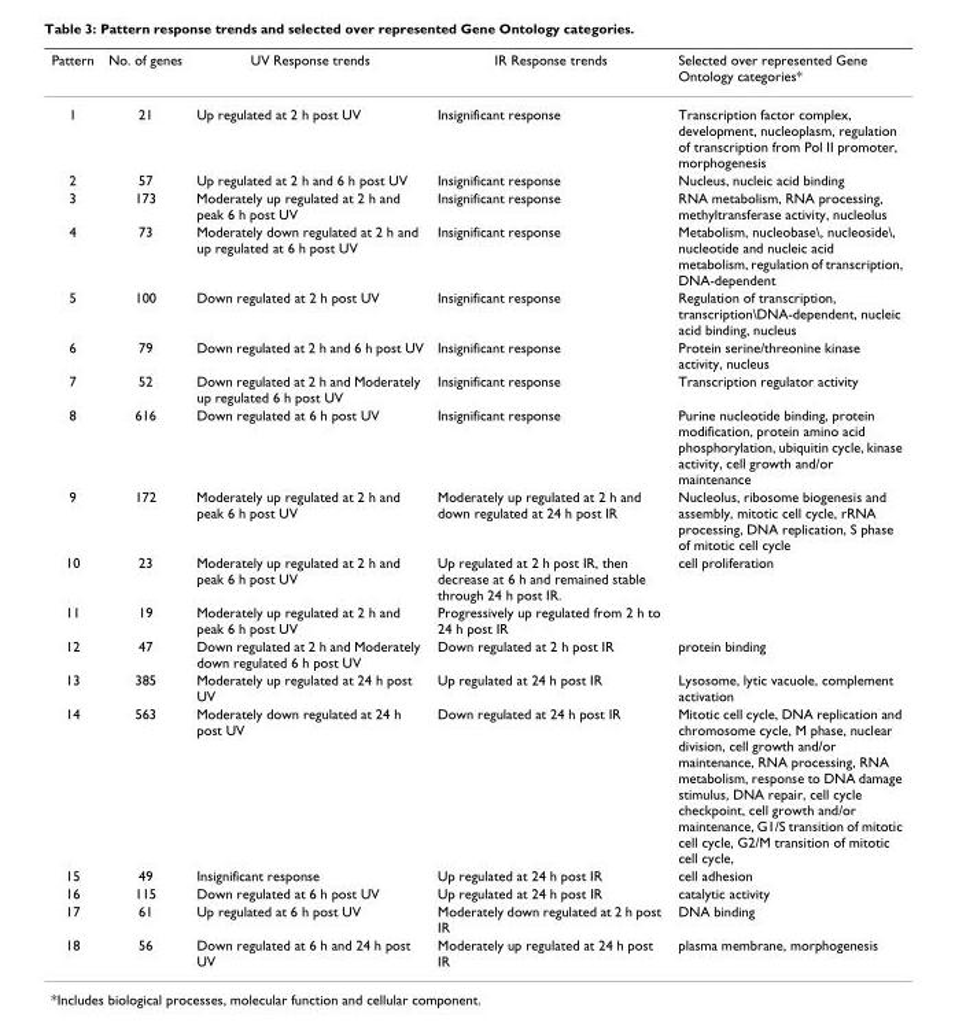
<table><thead><tr><td>Pattern</td><td>No. of genes</td><td>UV Response trends</td><td>IR Response trends</td><td>Selected over represented Gene Ontology categories*</td></tr></thead><tbody><tr><td>1</td><td>21</td><td>Up regulated at 2 h post UV</td><td>Insignificant response</td><td>Transcription factor complex, development, nucleoplasm, regulation of transcription from Pol II promoter, morphogenesis</td></tr><tr><td>2</td><td>57</td><td>Up regulated at 2 h and 6 h post UV</td><td>Insignificant response</td><td>Nucleus, nucleic acid binding</td></tr><tr><td>3</td><td>173</td><td>Moderately up regulated at 2 h and peak 6 h post UV</td><td>Insignificant response</td><td>RNA metabolism, RNA processing, methyltransferase activity, nucleolus</td></tr><tr><td>4</td><td>73</td><td>Moderately down regulated at 2 h and up regulated at 6 h post UV</td><td>Insignificant response</td><td>Metabolism, nucleobase\, nucleoside\, nucleotide and nucleic acid metabolism, regulation of transcription, DNA-dependent</td></tr><tr><td>5</td><td>100</td><td>Down regulated at 2 h post UV</td><td>Insignificant response</td><td>Regulation of transcription, transcription\DNA-dependent, nucleic acid binding, nucleus</td></tr><tr><td>6</td><td>79</td><td>Down regulated at 2 h and 6 h post UV</td><td>Insignificant response</td><td>Protein serine/threonine kinase activity, nucleus</td></tr><tr><td>7</td><td>52</td><td>Down regulated at 2 h and Moderately up regulated 6 h post UV</td><td>Insignificant response</td><td>Transcription regulator activity</td></tr><tr><td>8</td><td>616</td><td>Down regulated at 6 h post UV</td><td>Insignificant response</td><td>Purine nucleotide binding, protein modification, protein amino acid phosphorylation, ubiquitin cycle, kinase activity, cell growth and/or maintenance</td></tr><tr><td>9</td><td>172</td><td>Moderately up regulated at 2 h and peak 6 h post UV</td><td>Moderately up regulated at 2 h and down regulated at 24 h post IR</td><td>Nucleolus, ribosome biogenesis and assembly, mitotic cell cycle, rRNA processing, DNA replication, S phase of mitotic cell cycle</td></tr><tr><td>10</td><td>23</td><td>Moderately up regulated at 2 h and peak 6 h post UV</td><td>Up regulated at 2 h post IR, then decrease at 6 h and remained stable through 24 h post IR.</td><td>cell proliferation</td></tr><tr><td>11</td><td>19</td><td>Moderately up regulated at 2 h and peak 6 h post UV</td><td>Progressively up regulated from 2 h to 24 h post IR</td><td></td></tr><tr><td>12</td><td>47</td><td>Down regulated at 2 h and Moderately down regulated 6 h post UV</td><td>Down regulated at 2 h post IR</td><td>protein binding</td></tr><tr><td>13</td><td>385</td><td>Moderately up regulated at 24 h post UV</td><td>Up regulated at 24 h post IR</td><td>Lysosome, lytic vacuole, complement activation</td></tr><tr><td>14</td><td>563</td><td>Moderately down regulated at 24 h post UV</td><td>Down regulated at 24 h post IR</td><td>Mitotic cell cycle, DNA replication and chromosome cycle, M phase, nuclear division, cell growth and/or maintenance, RNA processing, RNA metabolism, response to DNA damage stimulus, DNA repair, cell cycle checkpoint, cell growth and/or maintenance, G1/S transition of mitotic cell cycle, G2/M transition of mitotic cell cycle,</td></tr><tr><td>15</td><td>49</td><td>Insignificant response</td><td>Up regulated at 24 h post IR</td><td>cell adhesion</td></tr><tr><td>16</td><td>115</td><td>Down regulated at 6 h post UV</td><td>Up regulated at 24 h post IR</td><td>catalytic activity</td></tr><tr><td>17</td><td>61</td><td>Up regulated at 6 h post UV</td><td>Moderately down regulated at 2 h post IR</td><td>DNA binding</td></tr><tr><td>18</td><td>56</td><td>Down regulated at 6 h and 24 h post UV</td><td>Moderately up regulated at 24 h post IR</td><td>plasma membrane, morphogenesis</td></tr></tbody></table>